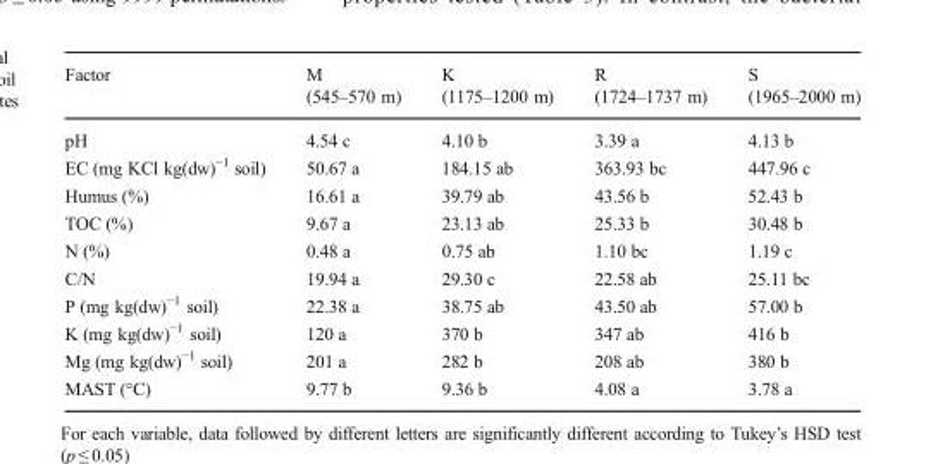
<table><thead><tr><td rowspan="2">Factor</td><td rowspan="2">M (545–570 m)</td><td rowspan="2">K (1175–1200 m)</td><td rowspan="2">R (1724–1737 m)</td><td rowspan="2">S (1965–2000 m)</td></tr><tr></tr></thead><tbody><tr><td>pH</td><td>4.54 c</td><td>4.10 b</td><td>3.39 a</td><td>4.13 b</td></tr><tr><td>EC (mg KCl kg(dw)<sup>−1</sup> soil)</td><td>50.67 a</td><td>184.15 ab</td><td>363.93 bc</td><td>447.96 c</td></tr><tr><td>Humus (%)</td><td>16.61 a</td><td>39.79 ab</td><td>43.56 b</td><td>52.43 b</td></tr><tr><td>TOC (%)</td><td>9.67 a</td><td>23.13 ab</td><td>25.33 b</td><td>30.48 b</td></tr><tr><td>N (%)</td><td>0.48 a</td><td>0.75 ab</td><td>1.10 bc</td><td>1.19 c</td></tr><tr><td>C/N</td><td>19.94 a</td><td>29.30 c</td><td>22.58 ab</td><td>25.11 bc</td></tr><tr><td>P (mg kg(dw)<sup>−1</sup> soil)</td><td>22.38 a</td><td>38.75 ab</td><td>43.50 ab</td><td>57.00 b</td></tr><tr><td>K (mg kg(dw)<sup>−1</sup> soil)</td><td>120 a</td><td>370 b</td><td>347 ab</td><td>416 b</td></tr><tr><td>Mg (mg kg(dw)<sup>−1</sup> soil)</td><td>201 a</td><td>282 b</td><td>208 ab</td><td>380 b</td></tr><tr><td>MAST (°C)</td><td>9.77 b</td><td>9.36 b</td><td>4.08 a</td><td>3.78 a</td></tr></tbody></table>